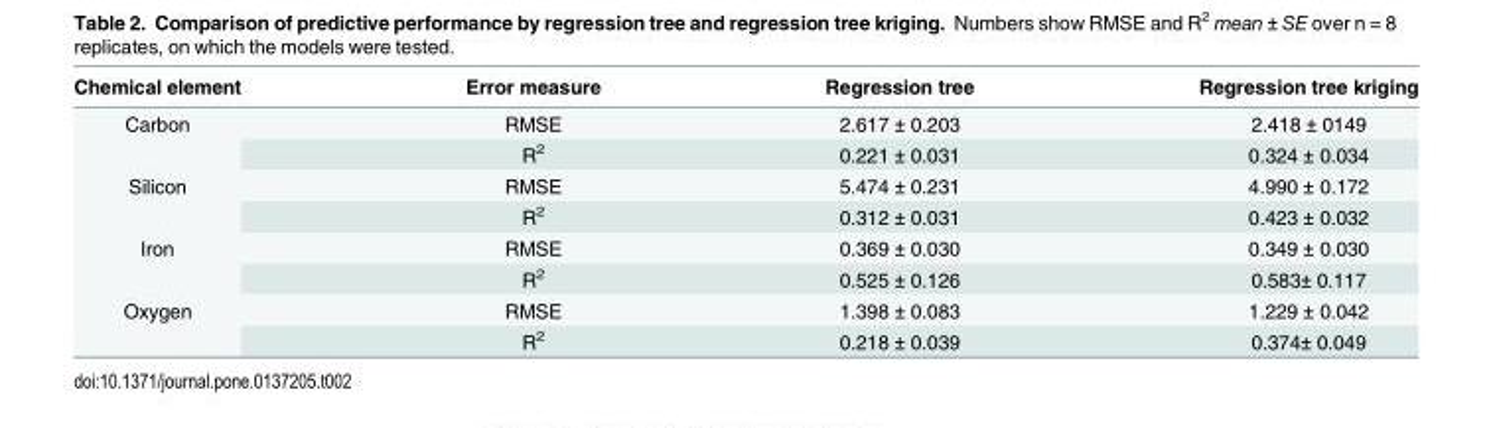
<table><thead><tr><td>Chemical element</td><td>Error measure</td><td>Regression tree</td><td>Regression tree kriging</td></tr></thead><tbody><tr><td rowspan="2">Carbon</td><td>RMSE</td><td>2.617 ± 0.203</td><td>2.418 ± 0149</td></tr><tr><td>R<sup>2</sup></td><td>0.221 ± 0.031</td><td>0.324 ± 0.034</td></tr><tr><td rowspan="2">Silicon</td><td>RMSE</td><td>5.474 ± 0.231</td><td>4.990 ± 0.172</td></tr><tr><td>R<sup>2</sup></td><td>0.312 ± 0.031</td><td>0.423 ± 0.032</td></tr><tr><td rowspan="2">Iron</td><td>RMSE</td><td>0.369 ± 0.030</td><td>0.349 ± 0.030</td></tr><tr><td>R<sup>2</sup></td><td>0.525 ± 0.126</td><td>0.583± 0.117</td></tr><tr><td rowspan="2">Oxygen</td><td>RMSE</td><td>1.398 ± 0.083</td><td>1.229 ± 0.042</td></tr><tr><td>R<sup>2</sup></td><td>0.218 ± 0.039</td><td>0.374± 0.049</td></tr></tbody></table>